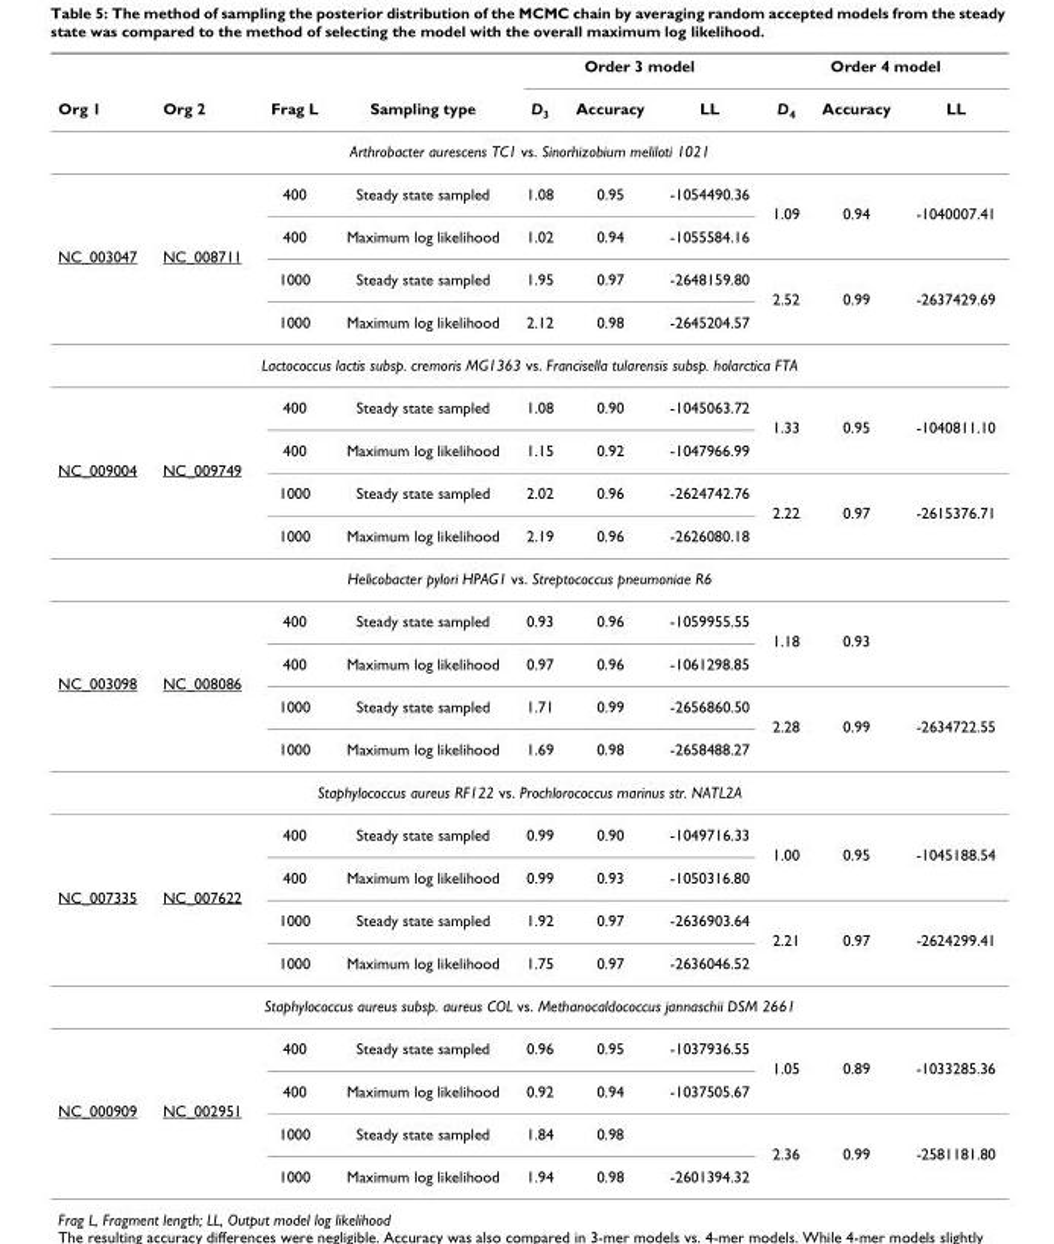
<table><thead><tr><td rowspan="2">Org 1</td><td rowspan="2">Org 2</td><td rowspan="2">Frag L</td><td rowspan="2">Sampling type</td><td colspan="3">Order 3 model</td><td colspan="3">Order 4 model</td></tr><tr><td>D<sub>3</sub></td><td>Accuracy</td><td>LL</td><td>D<sub>4</sub></td><td>Accuracy</td><td>LL</td></tr></thead><tbody><tr><td colspan="10">Arthrobacter aurescens TC1 vs. Sinorhizobium meliloti 1021</td></tr><tr><td></td><td></td><td>400</td><td>Steady state sampled</td><td>1.08</td><td>0.95</td><td>-1054490.36</td><td></td><td></td><td></td></tr><tr><td></td><td></td><td colspan="5"></td><td>1.09</td><td>0.94</td><td>-1040007.41</td></tr><tr><td></td><td></td><td>400</td><td>Maximum log likelihood</td><td>1.02</td><td>0.94</td><td>-1055584.16</td><td></td><td></td><td></td></tr><tr><td rowspan="4">NC_003047</td><td>NC_008711</td><td colspan="8"></td></tr><tr><td></td><td>1000</td><td>Steady state sampled</td><td>1.95</td><td>0.97</td><td>-2648159.80</td><td></td><td></td><td></td></tr><tr><td></td><td colspan="5"></td><td>2.52</td><td>0.99</td><td>-2637429.69</td></tr><tr><td></td><td>1000</td><td>Maximum log likelihood</td><td>2.12</td><td>0.98</td><td>-2645204.57</td><td></td><td></td><td></td></tr><tr><td colspan="10">Lactococcus lactis subsp. cremoris MG1363 vs. Francisella tularensis subsp. holarctica FTA</td></tr><tr><td></td><td></td><td>400</td><td>Steady state sampled</td><td>1.08</td><td>0.90</td><td>-1045063.72</td><td></td><td></td><td></td></tr><tr><td></td><td></td><td colspan="5"></td><td>1.33</td><td>0.95</td><td>-1040811.10</td></tr><tr><td></td><td></td><td>400</td><td>Maximum log likelihood</td><td>1.15</td><td>0.92</td><td>-1047966.99</td><td></td><td></td><td></td></tr><tr><td rowspan="4">NC_009004</td><td>NC_009749</td><td colspan="8"></td></tr><tr><td></td><td>1000</td><td>Steady state sampled</td><td>2.02</td><td>0.96</td><td>-2624742.76</td><td></td><td></td><td></td></tr><tr><td></td><td colspan="5"></td><td>2.22</td><td>0.97</td><td>-2615376.71</td></tr><tr><td></td><td>1000</td><td>Maximum log likelihood</td><td>2.19</td><td>0.96</td><td>-2626080.18</td><td></td><td></td><td></td></tr><tr><td colspan="10">Helicobacter pylori HPAG1 vs. Streptococcus pneumoniae R6</td></tr><tr><td></td><td></td><td>400</td><td>Steady state sampled</td><td>0.93</td><td>0.96</td><td>-1059955.55</td><td></td><td></td><td></td></tr><tr><td></td><td></td><td colspan="5"></td><td>1.18</td><td>0.93</td><td></td></tr><tr><td></td><td></td><td>400</td><td>Maximum log likelihood</td><td>0.97</td><td>0.96</td><td>-1061298.85</td><td></td><td></td><td></td></tr><tr><td rowspan="4">NC_003098</td><td>NC_008086</td><td colspan="8"></td></tr><tr><td></td><td>1000</td><td>Steady state sampled</td><td>1.71</td><td>0.99</td><td>-2656860.50</td><td></td><td></td><td></td></tr><tr><td></td><td colspan="5"></td><td>2.28</td><td>0.99</td><td>-2634722.55</td></tr><tr><td></td><td>1000</td><td>Maximum log likelihood</td><td>1.69</td><td>0.98</td><td>-2658488.27</td><td></td><td></td><td></td></tr><tr><td colspan="10">Staphylococcus aureus RF122 vs. Prochlorococcus marinus str. NATL2A</td></tr><tr><td></td><td></td><td>400</td><td>Steady state sampled</td><td>0.99</td><td>0.90</td><td>-1049716.33</td><td></td><td></td><td></td></tr><tr><td></td><td></td><td colspan="5"></td><td>1.00</td><td>0.95</td><td>-1045188.54</td></tr><tr><td></td><td></td><td>400</td><td>Maximum log likelihood</td><td>0.99</td><td>0.93</td><td>-1050316.80</td><td></td><td></td><td></td></tr><tr><td rowspan="4">NC_007335</td><td>NC_007622</td><td colspan="8"></td></tr><tr><td></td><td>1000</td><td>Steady state sampled</td><td>1.92</td><td>0.97</td><td>-2636903.64</td><td></td><td></td><td></td></tr><tr><td></td><td colspan="5"></td><td>2.21</td><td>0.97</td><td>-2624299.41</td></tr><tr><td></td><td>1000</td><td>Maximum log likelihood</td><td>1.75</td><td>0.97</td><td>-2636046.52</td><td></td><td></td><td></td></tr><tr><td colspan="10">Staphylococcus aureus subsp. aureus COL vs. Methanocaldococcus jannaschii DSM 2661</td></tr><tr><td></td><td></td><td>400</td><td>Steady state sampled</td><td>0.96</td><td>0.95</td><td>-1037936.55</td><td></td><td></td><td></td></tr><tr><td></td><td></td><td colspan="5"></td><td>1.05</td><td>0.89</td><td>-1033285.36</td></tr><tr><td></td><td></td><td>400</td><td>Maximum log likelihood</td><td>0.92</td><td>0.94</td><td>-1037505.67</td><td></td><td></td><td></td></tr><tr><td rowspan="4">NC_000909</td><td>NC_002951</td><td colspan="8"></td></tr><tr><td></td><td>1000</td><td>Steady state sampled</td><td>1.84</td><td>0.98</td><td></td><td></td><td></td><td></td></tr><tr><td></td><td colspan="5"></td><td>2.36</td><td>0.99</td><td>-2581181.80</td></tr><tr><td></td><td>1000</td><td>Maximum log likelihood</td><td>1.94</td><td>0.98</td><td>-2601394.32</td><td></td><td></td><td></td></tr></tbody></table>